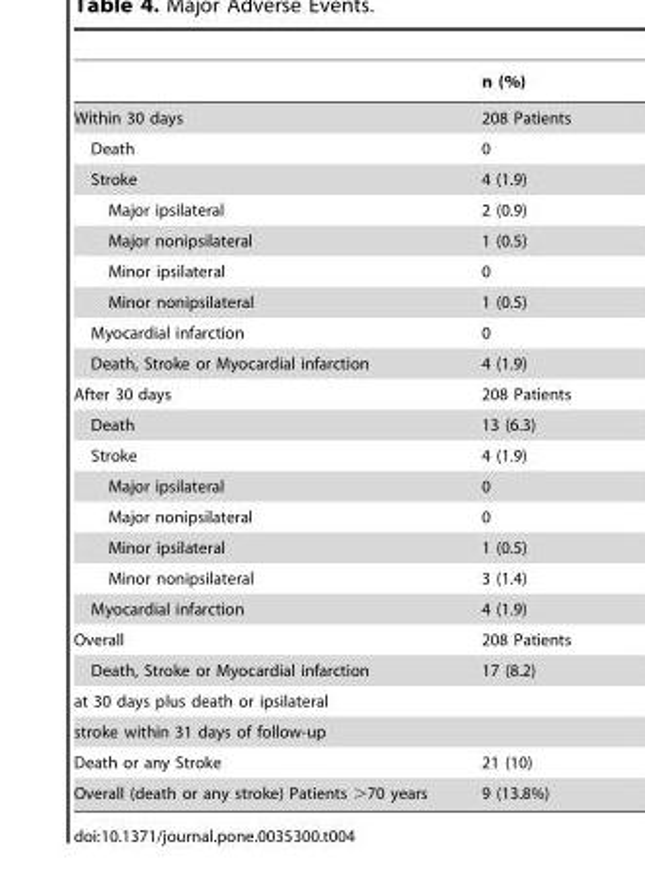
<table><thead><tr><td></td><td>n (%)</td></tr></thead><tbody><tr><td>Within 30 days</td><td>208 Patients</td></tr><tr><td>Death</td><td>0</td></tr><tr><td>Stroke</td><td>4 (1.9)</td></tr><tr><td>Major ipsilateral</td><td>2 (0.9)</td></tr><tr><td>Major nonipsilateral</td><td>1 (0.5)</td></tr><tr><td>Minor ipsilateral</td><td>0</td></tr><tr><td>Minor nonipsilateral</td><td>1 (0.5)</td></tr><tr><td>Myocardial infarction</td><td>0</td></tr><tr><td>Death, Stroke or Myocardial infarction</td><td>4 (1.9)</td></tr><tr><td>After 30 days</td><td>208 Patients</td></tr><tr><td>Death</td><td>13 (6.3)</td></tr><tr><td>Stroke</td><td>4 (1.9)</td></tr><tr><td>Major ipsilateral</td><td>0</td></tr><tr><td>Major nonipsilateral</td><td>0</td></tr><tr><td>Minor ipsilateral</td><td>1 (0.5)</td></tr><tr><td>Minor nonipsilateral</td><td>3 (1.4)</td></tr><tr><td>Myocardial infarction</td><td>4 (1.9)</td></tr><tr><td>Overall</td><td>208 Patients</td></tr><tr><td>Death, Stroke or Myocardial infarction</td><td>17 (8.2)</td></tr><tr><td colspan="2">at 30 days plus death or ipsilateral</td></tr><tr><td colspan="2">stroke within 31 days of follow-up</td></tr><tr><td>Death or any Stroke</td><td>21 (10)</td></tr><tr><td>Overall (death or any stroke) Patients &gt;70 years</td><td>9 (13.8%)</td></tr></tbody></table>